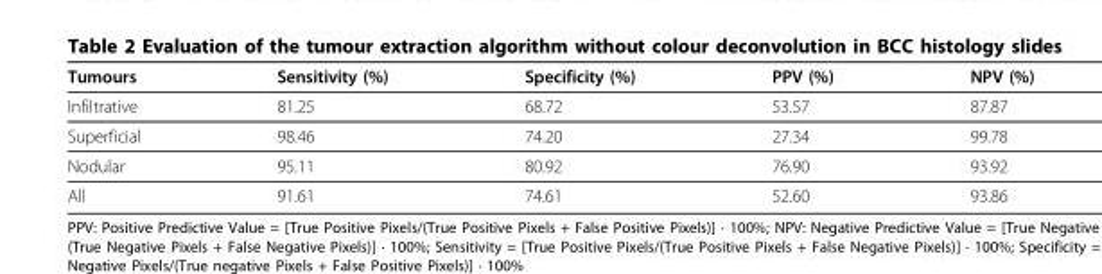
<table><thead><tr><td>Tumours</td><td>Sensitivity (%)</td><td>Specificity (%)</td><td>PPV (%)</td><td>NPV (%)</td></tr></thead><tbody><tr><td>Infiltrative</td><td>81.25</td><td>68.72</td><td>53.57</td><td>87.87</td></tr><tr><td>Superficial</td><td>98.46</td><td>74.20</td><td>27.34</td><td>99.78</td></tr><tr><td>Nodular</td><td>95.11</td><td>80.92</td><td>76.90</td><td>93.92</td></tr><tr><td>All</td><td>91.61</td><td>74.61</td><td>52.60</td><td>93.86</td></tr></tbody></table>